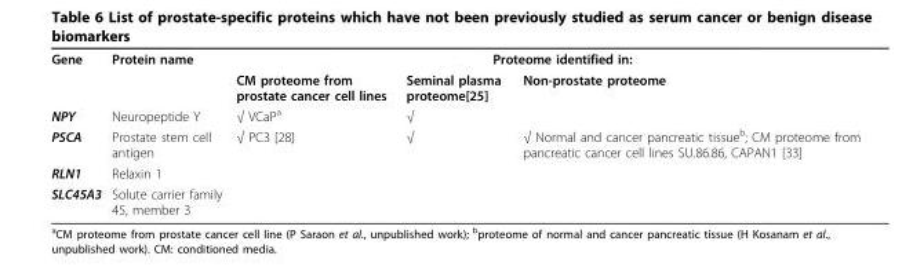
<table><tbody><tr><td rowspan="2">Gene</td><td>Protein name</td><td colspan="3">Proteome identified in:</td></tr><tr><td></td><td>CM proteome from prostate cancer cell lines</td><td>Seminal plasma proteome[25]</td><td>Non-prostate proteome</td></tr><tr><td>NPY</td><td>Neuropeptide Y</td><td>√ VCaP<sup>a</sup></td><td>√</td><td></td></tr><tr><td>PSCA</td><td>Prostate stem cell antigen</td><td>√ PC3 [28]</td><td>√</td><td>√ Normal and cancer pancreatic tissue<sup>b</sup>; CM proteome from pancreatic cancer cell lines SU.86.86, CAPAN1 [33]</td></tr><tr><td>RLN1</td><td>Relaxin 1</td><td></td><td></td><td></td></tr><tr><td>SLC45A3</td><td>Solute carrier family 45, member 3</td><td></td><td></td><td></td></tr></tbody></table>